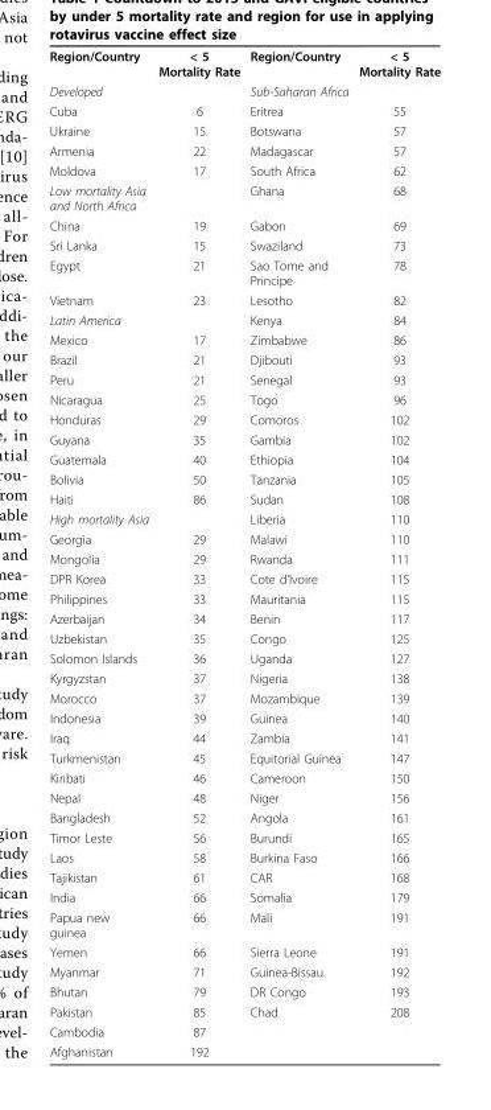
<table><tbody><tr><td>Region/Country</td><td>&lt; 5 Mortality Rate</td><td>Region/Country</td><td>&lt; 5 Mortality Rate</td></tr><tr><td>Developed</td><td></td><td>Sub-Saharan Africa</td><td></td></tr><tr><td>Cuba</td><td>6</td><td>Eritrea</td><td>55</td></tr><tr><td>Ukraine</td><td>15</td><td>Botswana</td><td>57</td></tr><tr><td>Armenia</td><td>22</td><td>Madagascar</td><td>57</td></tr><tr><td>Moldova</td><td>17</td><td>South Africa</td><td>62</td></tr><tr><td>Low mortality Asia and North Africa</td><td></td><td>Ghana</td><td>68</td></tr><tr><td>China</td><td>19</td><td>Gabon</td><td>69</td></tr><tr><td>Sri Lanka</td><td>15</td><td>Swaziland</td><td>73</td></tr><tr><td>Egypt</td><td>21</td><td>Sao Tome and Principe</td><td>78</td></tr><tr><td>Vietnam</td><td>23</td><td>Lesotho</td><td>82</td></tr><tr><td>Latin America</td><td></td><td>Kenya</td><td>84</td></tr><tr><td>Mexico</td><td>17</td><td>Zimbabwe</td><td>86</td></tr><tr><td>Brazil</td><td>21</td><td>Djibouti</td><td>93</td></tr><tr><td>Peru</td><td>21</td><td>Senegal</td><td>93</td></tr><tr><td>Nicaragua</td><td>25</td><td>Togo</td><td>96</td></tr><tr><td>Honduras</td><td>29</td><td>Comoros</td><td>102</td></tr><tr><td>Guyana</td><td>35</td><td>Gambia</td><td>102</td></tr><tr><td>Guatemala</td><td>40</td><td>Ethiopia</td><td>104</td></tr><tr><td>Bolivia</td><td>50</td><td>Tanzania</td><td>105</td></tr><tr><td>Haiti</td><td>86</td><td>Sudan</td><td>108</td></tr><tr><td>High mortality Asia</td><td></td><td>Liberia</td><td>110</td></tr><tr><td>Georgia</td><td>29</td><td>Malawi</td><td>110</td></tr><tr><td>Mongolia</td><td>29</td><td>Rwanda</td><td>111</td></tr><tr><td>DPR Korea</td><td>33</td><td>Cote d’Ivoire</td><td>115</td></tr><tr><td>Philippines</td><td>33</td><td>Mauritania</td><td>115</td></tr><tr><td>Azerbaijan</td><td>34</td><td>Benin</td><td>117</td></tr><tr><td>Uzbekistan</td><td>35</td><td>Congo</td><td>125</td></tr><tr><td>Solomon Islands</td><td>36</td><td>Uganda</td><td>127</td></tr><tr><td>Kyrgyzstan</td><td>37</td><td>Nigeria</td><td>138</td></tr><tr><td>Morocco</td><td>37</td><td>Mozambique</td><td>139</td></tr><tr><td>Indonesia</td><td>39</td><td>Guinea</td><td>140</td></tr><tr><td>Iraq</td><td>44</td><td>Zambia</td><td>141</td></tr><tr><td>Turkmenistan</td><td>45</td><td>Equitorial Guinea</td><td>147</td></tr><tr><td>Kiribati</td><td>46</td><td>Cameroon</td><td>150</td></tr><tr><td>Nepal</td><td>48</td><td>Niger</td><td>156</td></tr><tr><td>Bangladesh</td><td>52</td><td>Angola</td><td>161</td></tr><tr><td>Timor Leste</td><td>56</td><td>Burundi</td><td>165</td></tr><tr><td>Laos</td><td>58</td><td>Burkina Faso</td><td>166</td></tr><tr><td>Tajikistan</td><td>61</td><td>CAR</td><td>168</td></tr><tr><td>India</td><td>66</td><td>Somalia</td><td>179</td></tr><tr><td>Papua new guinea</td><td>66</td><td>Mali</td><td>191</td></tr><tr><td>Yemen</td><td>66</td><td>Sierra Leone</td><td>191</td></tr><tr><td>Myanmar</td><td>71</td><td>Guinea-Bissau</td><td>192</td></tr><tr><td>Bhutan</td><td>79</td><td>DR Congo</td><td>193</td></tr><tr><td>Pakistan</td><td>85</td><td>Chad</td><td>208</td></tr><tr><td>Cambodia</td><td>87</td><td></td><td></td></tr><tr><td>Afghanistan</td><td>192</td><td></td><td></td></tr></tbody></table>